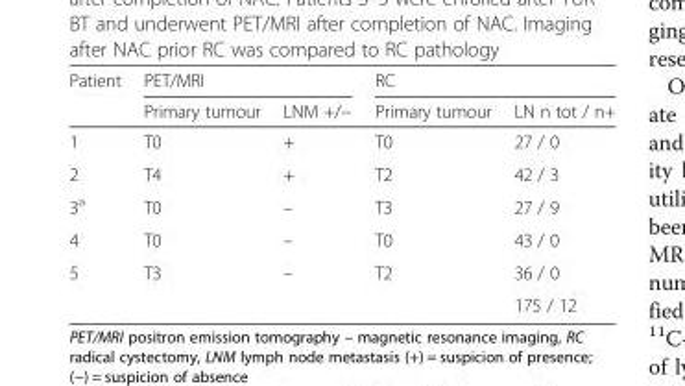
<table><thead><tr><td rowspan="2">Patient</td><td colspan="2">PET/MRI</td><td colspan="2">RC</td></tr><tr><td>Primary tumour</td><td>LNM +/−</td><td>Primary tumour</td><td>LN n tot / n+</td></tr></thead><tbody><tr><td>1</td><td>T0</td><td>+</td><td>T0</td><td>27 / 0</td></tr><tr><td>2</td><td>T4</td><td>+</td><td>T2</td><td>42 / 3</td></tr><tr><td>3<sup>a</sup></td><td>T0</td><td>–</td><td>T3</td><td>27 / 9</td></tr><tr><td>4</td><td>T0</td><td>–</td><td>T0</td><td>43 / 0</td></tr><tr><td rowspan="2">5</td><td>T3</td><td>–</td><td>T2</td><td>36 / 0</td></tr><tr><td></td><td></td><td></td><td>175 / 12</td></tr></tbody></table>